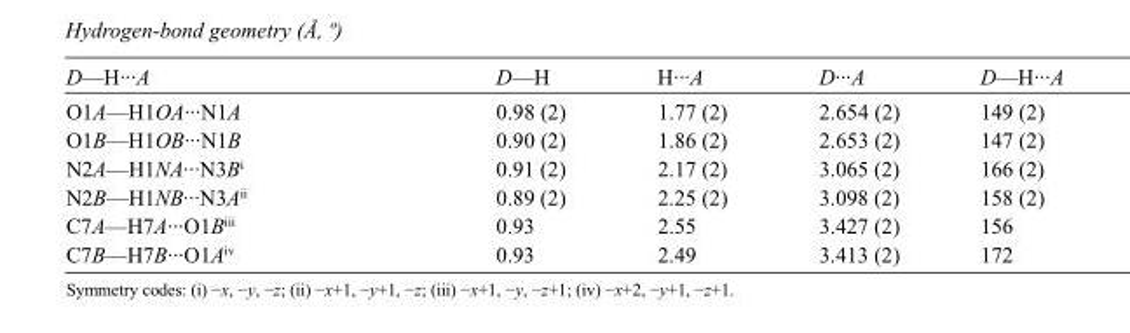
<table><tbody><tr><td>D—H···A</td><td>D—H</td><td>H···A</td><td>D···A</td><td>D—H···A</td></tr><tr><td>O1A—H1OA···N1A</td><td>0.98 (2)</td><td>1.77 (2)</td><td>2.654 (2)</td><td>149 (2)</td></tr><tr><td>O1B—H1OB···N1B</td><td>0.90 (2)</td><td>1.86 (2)</td><td>2.653 (2)</td><td>147 (2)</td></tr><tr><td>N2A—H1NA···N3B<sup>i</sup></td><td>0.91 (2)</td><td>2.17 (2)</td><td>3.065 (2)</td><td>166 (2)</td></tr><tr><td>N2B—H1NB···N3A<sup>ii</sup></td><td>0.89 (2)</td><td>2.25 (2)</td><td>3.098 (2)</td><td>158 (2)</td></tr><tr><td>C7A—H7A···O1B<sup>iii</sup></td><td>0.93</td><td>2.55</td><td>3.427 (2)</td><td>156</td></tr><tr><td>C7B—H7B···O1A<sup>iv</sup></td><td>0.93</td><td>2.49</td><td>3.413 (2)</td><td>172</td></tr></tbody></table>